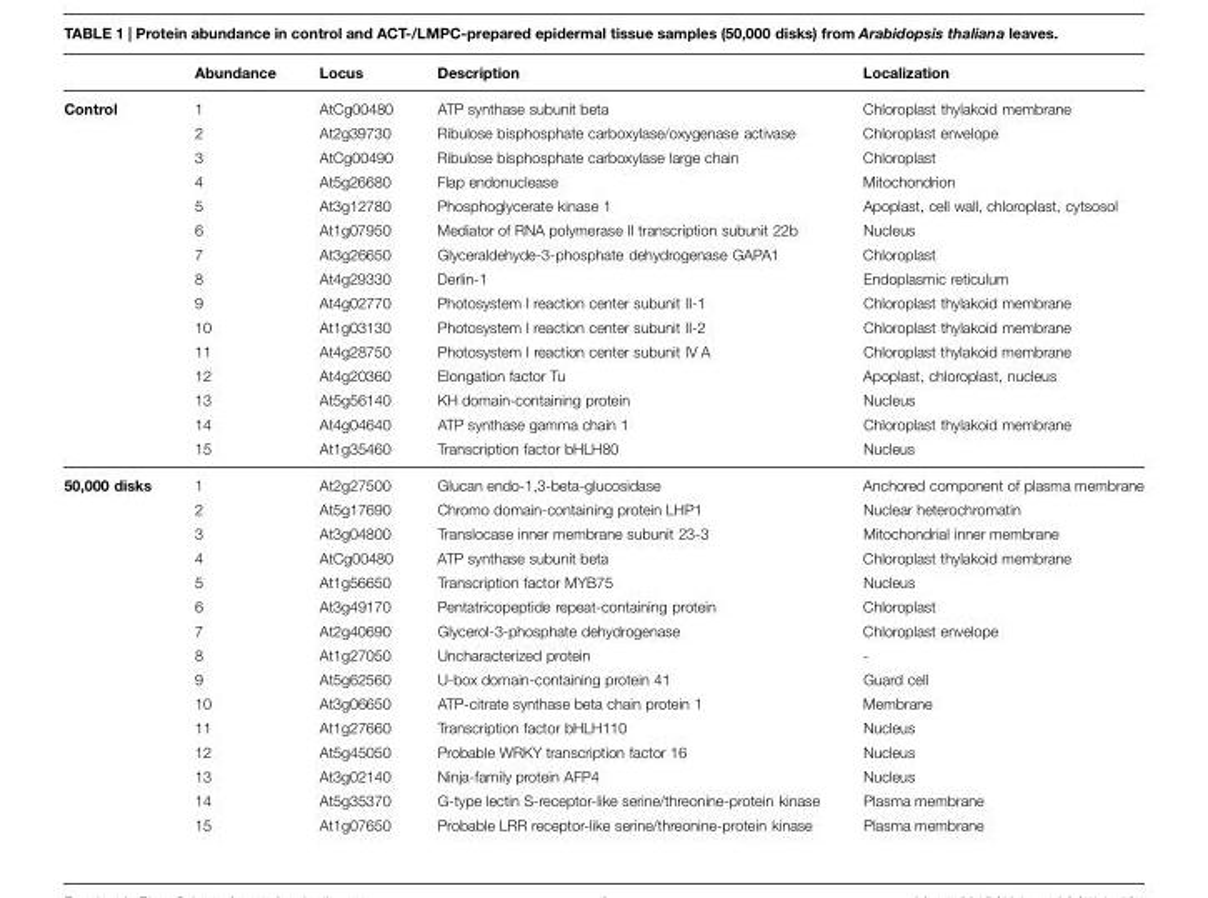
<table><thead><tr><td></td><td>Abundance</td><td>Locus</td><td>Description</td><td>Localization</td></tr></thead><tbody><tr><td rowspan="15">Control</td><td>1</td><td>AtCg00480</td><td>ATP synthase subunit beta</td><td>Chloroplast thylakoid membrane</td></tr><tr><td>2</td><td>At2g39730</td><td>Ribulose bisphosphate carboxylase/oxygenase activase</td><td>Chloroplast envelope</td></tr><tr><td>3</td><td>AtCg00490</td><td>Ribulose bisphosphate carboxylase large chain</td><td>Chloroplast</td></tr><tr><td>4</td><td>At5g26680</td><td>Flap endonuclease</td><td>Mitochondrion</td></tr><tr><td>5</td><td>At3g12780</td><td>Phosphoglycerate kinase 1</td><td>Apoplast, cell wall, chloroplast, cytsosol</td></tr><tr><td>6</td><td>At1g07950</td><td>Mediator of RNA polymerase II transcription subunit 22b</td><td>Nucleus</td></tr><tr><td>7</td><td>At3g26650</td><td>Glyceraldehyde-3-phosphate dehydrogenase GAPA1</td><td>Chloroplast</td></tr><tr><td>8</td><td>At4g29330</td><td>Derlin-1</td><td>Endoplasmic reticulum</td></tr><tr><td>9</td><td>At4g02770</td><td>Photosystem I reaction center subunit II-1</td><td>Chloroplast thylakoid membrane</td></tr><tr><td>10</td><td>At1g03130</td><td>Photosystem I reaction center subunit II-2</td><td>Chloroplast thylakoid membrane</td></tr><tr><td>11</td><td>At4g28750</td><td>Photosystem I reaction center subunit IV A</td><td>Chloroplast thylakoid membrane</td></tr><tr><td>12</td><td>At4g20360</td><td>Elongation factor Tu</td><td>Apoplast, chloroplast, nucleus</td></tr><tr><td>13</td><td>At5g56140</td><td>KH domain-containing protein</td><td>Nucleus</td></tr><tr><td>14</td><td>At4g04640</td><td>ATP synthase gamma chain 1</td><td>Chloroplast thylakoid membrane</td></tr><tr><td>15</td><td>At1g35460</td><td>Transcription factor bHLH80</td><td>Nucleus</td></tr><tr><td rowspan="15">50,000 disks</td><td>1</td><td>At2g27500</td><td>Glucan endo-1,3-beta-glucosidase</td><td>Anchored component of plasma membrane</td></tr><tr><td>2</td><td>At5g17690</td><td>Chromo domain-containing protein LHP1</td><td>Nuclear heterochromatin</td></tr><tr><td>3</td><td>At3g04800</td><td>Translocase inner membrane subunit 23-3</td><td>Mitochondrial inner membrane</td></tr><tr><td>4</td><td>AtCg00480</td><td>ATP synthase subunit beta</td><td>Chloroplast thylakoid membrane</td></tr><tr><td>5</td><td>At1g56650</td><td>Transcription factor MYB75</td><td>Nucleus</td></tr><tr><td>6</td><td>At3g49170</td><td>Pentatricopeptide repeat-containing protein</td><td>Chloroplast</td></tr><tr><td>7</td><td>At2g40690</td><td>Glycerol-3-phosphate dehydrogenase</td><td>Chloroplast envelope</td></tr><tr><td>8</td><td>At1g27050</td><td>Uncharacterized protein</td><td>-</td></tr><tr><td>9</td><td>At5g62560</td><td>U-box domain-containing protein 41</td><td>Guard cell</td></tr><tr><td>10</td><td>At3g06650</td><td>ATP-citrate synthase beta chain protein 1</td><td>Membrane</td></tr><tr><td>11</td><td>At1g27660</td><td>Transcription factor bHLH110</td><td>Nucleus</td></tr><tr><td>12</td><td>At5g45050</td><td>Probable WRKY transcription factor 16</td><td>Nucleus</td></tr><tr><td>13</td><td>At3g02140</td><td>Ninja-family protein AFP4</td><td>Nucleus</td></tr><tr><td>14</td><td>At5g35370</td><td>G-type lectin S-receptor-like serine/threonine-protein kinase</td><td>Plasma membrane</td></tr><tr><td>15</td><td>At1g07650</td><td>Probable LRR receptor-like serine/threonine-protein kinase</td><td>Plasma membrane</td></tr></tbody></table>